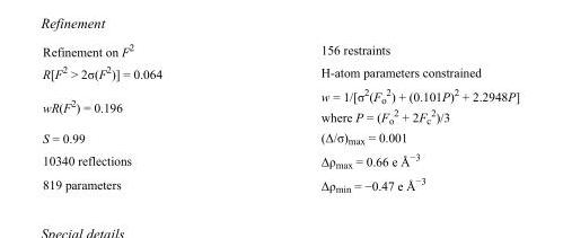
<table><tbody><tr><td>Refinement on F<sup>2</sup></td><td>156 restraints</td></tr><tr><td>R[F<sup>2</sup> &gt; 2σ(F<sup>2</sup>)] = 0.064</td><td>H-atom parameters constrained</td></tr><tr><td>wR(F<sup>2</sup>) = 0.196</td><td>w = 1/[σ<sup>2</sup>(F<sub>o</sub> <sup>2</sup>) + (0.101P)<sup>2</sup> + 2.2948P] where P = (F<sub>o</sub> <sup>2</sup> + 2F<sub>c</sub> <sup>2</sup>)/3</td></tr><tr><td>S = 0.99</td><td>(Δ/σ)<sub>max</sub> = 0.001</td></tr><tr><td>10340 reflections</td><td>Δρ<sub>max</sub> = 0.66 e Å<sup>−3</sup></td></tr><tr><td>819 parameters</td><td>Δρ<sub>min</sub> = −0.47 e Å<sup>−3</sup></td></tr></tbody></table>